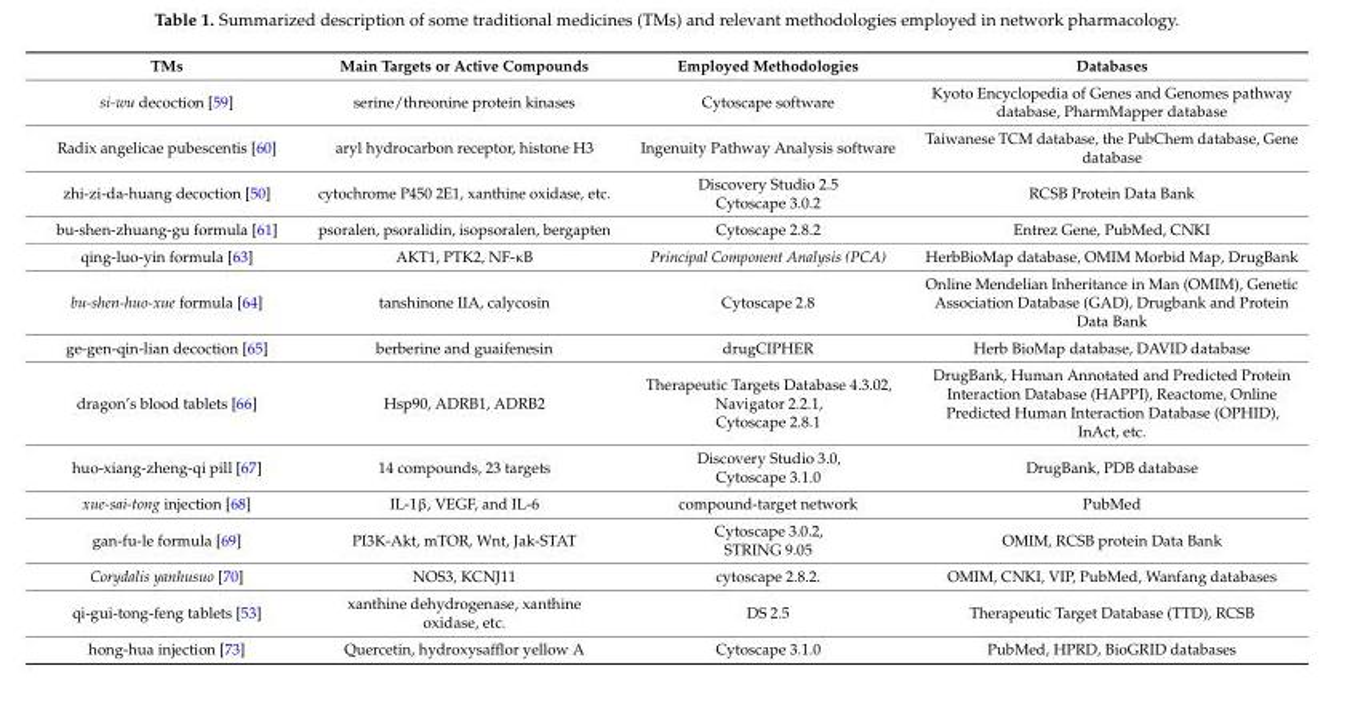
<table><thead><tr><td>TMs</td><td>Main Targets or Active Compounds</td><td>Employed Methodologies</td><td>Databases</td></tr></thead><tbody><tr><td>si-wu decoction [59]</td><td>serine/threonine protein kinases</td><td>Cytoscape software</td><td>Kyoto Encyclopedia of Genes and Genomes pathway database, PharmMapper database</td></tr><tr><td>Radix angelicae pubescentis [60]</td><td>aryl hydrocarbon receptor, histone H3</td><td>Ingenuity Pathway Analysis software</td><td>Taiwanese TCM database, the PubChem database, Gene database</td></tr><tr><td>zhi-zi-da-huang decoction [50]</td><td>cytochrome P450 2E1, xanthine oxidase, etc.</td><td>Discovery Studio 2.5 Cytoscape 3.0.2</td><td>RCSB Protein Data Bank</td></tr><tr><td>bu-shen-zhuang-gu formula [61]</td><td>psoralen, psoralidin, isopsoralen, bergapten</td><td>Cytoscape 2.8.2</td><td>Entrez Gene, PubMed, CNKI</td></tr><tr><td>qing-luo-yin formula [63]</td><td>AKT1, PTK2, NF-κB</td><td>Principal Component Analysis (PCA)</td><td>HerbBioMap database, OMIM Morbid Map, DrugBank</td></tr><tr><td>bu-shen-huo-xue formula [64]</td><td>tanshinone IIA, calycosin</td><td>Cytoscape 2.8</td><td>Online Mendelian Inheritance in Man (OMIM), Genetic Association Database (GAD), Drugbank and Protein Data Bank</td></tr><tr><td>ge-gen-qin-lian decoction [65]</td><td>berberine and guaifenesin</td><td>drugCIPHER</td><td>Herb BioMap database, DAVID database</td></tr><tr><td>dragon’s blood tablets [66]</td><td>Hsp90, ADRB1, ADRB2</td><td>Therapeutic Targets Database 4.3.02, Navigator 2.2.1, Cytoscape 2.8.1</td><td>DrugBank, Human Annotated and Predicted Protein Interaction Database (HAPPI), Reactome, Online Predicted Human Interaction Database (OPHID), InAct, etc.</td></tr><tr><td>huo-xiang-zheng-qi pill [67]</td><td>14 compounds, 23 targets</td><td>Discovery Studio 3.0, Cytoscape 3.1.0</td><td>DrugBank, PDB database</td></tr><tr><td>xue-sai-tong injection [68]</td><td>IL-1β, VEGF, and IL-6</td><td>compound-target network</td><td>PubMed</td></tr><tr><td>gan-fu-le formula [69]</td><td>PI3K-Akt, mTOR, Wnt, Jak-STAT</td><td>Cytoscape 3.0.2, STRING 9.05</td><td>OMIM, RCSB protein Data Bank</td></tr><tr><td>Corydalis yanhusuo [70]</td><td>NOS3, KCNJ11</td><td>cytoscape 2.8.2.</td><td>OMIM, CNKI, VIP, PubMed, Wanfang databases</td></tr><tr><td>qi-gui-tong-feng tablets [53]</td><td>xanthine dehydrogenase, xanthine oxidase, etc.</td><td>DS 2.5</td><td>Therapeutic Target Database (TTD), RCSB</td></tr><tr><td>hong-hua injection [73]</td><td>Quercetin, hydroxysafflor yellow A</td><td>Cytoscape 3.1.0</td><td>PubMed, HPRD, BioGRID databases</td></tr></tbody></table>